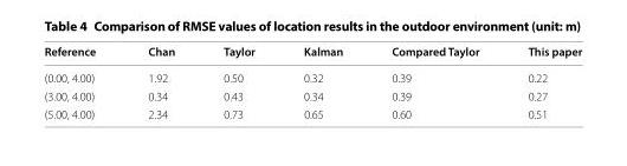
<table><thead><tr><td>Reference</td><td>Chan</td><td>Taylor</td><td>Kalman</td><td>Compared Taylor</td><td>This paper</td></tr></thead><tbody><tr><td>(0.00, 4.00)</td><td>1.92</td><td>0.50</td><td>0.32</td><td>0.39</td><td>0.22</td></tr><tr><td>(3.00, 4.00)</td><td>0.34</td><td>0.43</td><td>0.34</td><td>0.39</td><td>0.27</td></tr><tr><td>(5.00, 4.00)</td><td>2.34</td><td>0.73</td><td>0.65</td><td>0.60</td><td>0.51</td></tr></tbody></table>